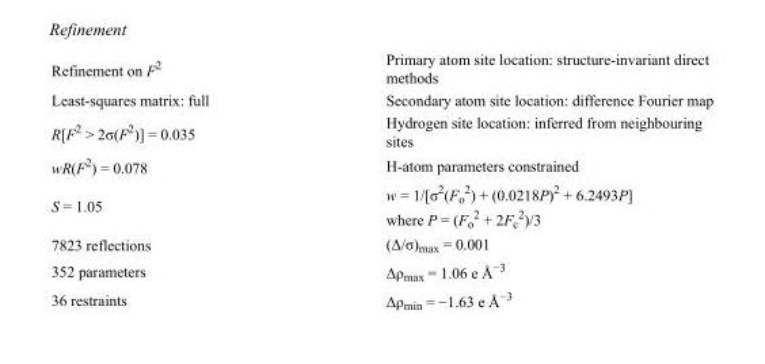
<table><tbody><tr><td>Refinement on F<sup>2</sup></td><td>Primary atom site location: structure-invariant direct methods</td></tr><tr><td>Least-squares matrix: full</td><td>Secondary atom site location: difference Fourier map</td></tr><tr><td>R[F<sup>2</sup> &gt; 2σ(F<sup>2</sup>)] = 0.035</td><td>Hydrogen site location: inferred from neighbouring sites</td></tr><tr><td>wR(F<sup>2</sup>) = 0.078</td><td>H-atom parameters constrained</td></tr><tr><td>S = 1.05</td><td>w = 1/[σ<sup>2</sup>(F<sub>o</sub> <sup>2</sup>) + (0.0218P)<sup>2</sup> + 6.2493P] where P = (F<sub>o</sub> <sup>2</sup> + 2F<sub>c</sub> <sup>2</sup>)/3</td></tr><tr><td>7823 reflections</td><td>(Δ/σ)<sub>max</sub> = 0.001</td></tr><tr><td>352 parameters</td><td>Δρ<sub>max</sub> = 1.06 e Å<sup>−3</sup></td></tr><tr><td>36 restraints</td><td>Δρ<sub>min</sub> = −1.63 e Å<sup>−3</sup></td></tr></tbody></table>